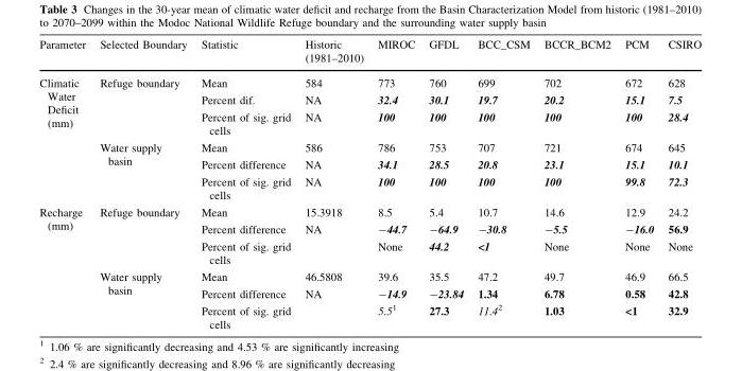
<table><thead><tr><td>Parameter</td><td>Selected Boundary</td><td>Statistic</td><td>Historic (1981–2010)</td><td>MIROC</td><td>GFDL</td><td>BCC_CSM</td><td>BCCR_BCM2</td><td>PCM</td><td>CSIRO</td></tr></thead><tbody><tr><td rowspan="6">Climatic Water Deficit (mm)</td><td rowspan="3">Refuge boundary</td><td>Mean</td><td>584</td><td>773</td><td>760</td><td>699</td><td>702</td><td>672</td><td>628</td></tr><tr><td>Percent dif.</td><td>NA</td><td>32.4</td><td>30.1</td><td>19.7</td><td>20.2</td><td>15.1</td><td>7.5</td></tr><tr><td>Percent of sig. grid cells</td><td>NA</td><td>100</td><td>100</td><td>100</td><td>100</td><td>100</td><td>28.4</td></tr><tr><td rowspan="3">Water supply basin</td><td>Mean</td><td>586</td><td>786</td><td>753</td><td>707</td><td>721</td><td>674</td><td>645</td></tr><tr><td>Percent difference</td><td>NA</td><td>34.1</td><td>28.5</td><td>20.8</td><td>23.1</td><td>15.1</td><td>10.1</td></tr><tr><td>Percent of sig. grid cells</td><td>NA</td><td>100</td><td>100</td><td>100</td><td>100</td><td>99.8</td><td>72.3</td></tr><tr><td rowspan="6">Recharge (mm)</td><td rowspan="3">Refuge boundary</td><td>Mean</td><td>15.3918</td><td>8.5</td><td>5.4</td><td>10.7</td><td>14.6</td><td>12.9</td><td>24.2</td></tr><tr><td>Percent difference</td><td>NA</td><td>-44.7</td><td>-64.9</td><td>-30.8</td><td>-5.5</td><td>-16.0</td><td>56.9</td></tr><tr><td>Percent of sig. grid cells</td><td></td><td>None</td><td>44.2</td><td>&lt;1</td><td>None</td><td>None</td><td>None</td></tr><tr><td rowspan="3">Water supply basin</td><td>Mean</td><td>46.5808</td><td>39.6</td><td>35.5</td><td>47.2</td><td>49.7</td><td>46.9</td><td>66.5</td></tr><tr><td>Percent difference</td><td>NA</td><td>-14.9</td><td>-23.84</td><td>1.34</td><td>6.78</td><td>0.58</td><td>42.8</td></tr><tr><td>Percent of sig. grid cells</td><td></td><td>5.5<sup>1</sup></td><td>27.3</td><td>11.4<sup>2</sup></td><td>1.03</td><td>&lt;1</td><td>32.9</td></tr></tbody></table>